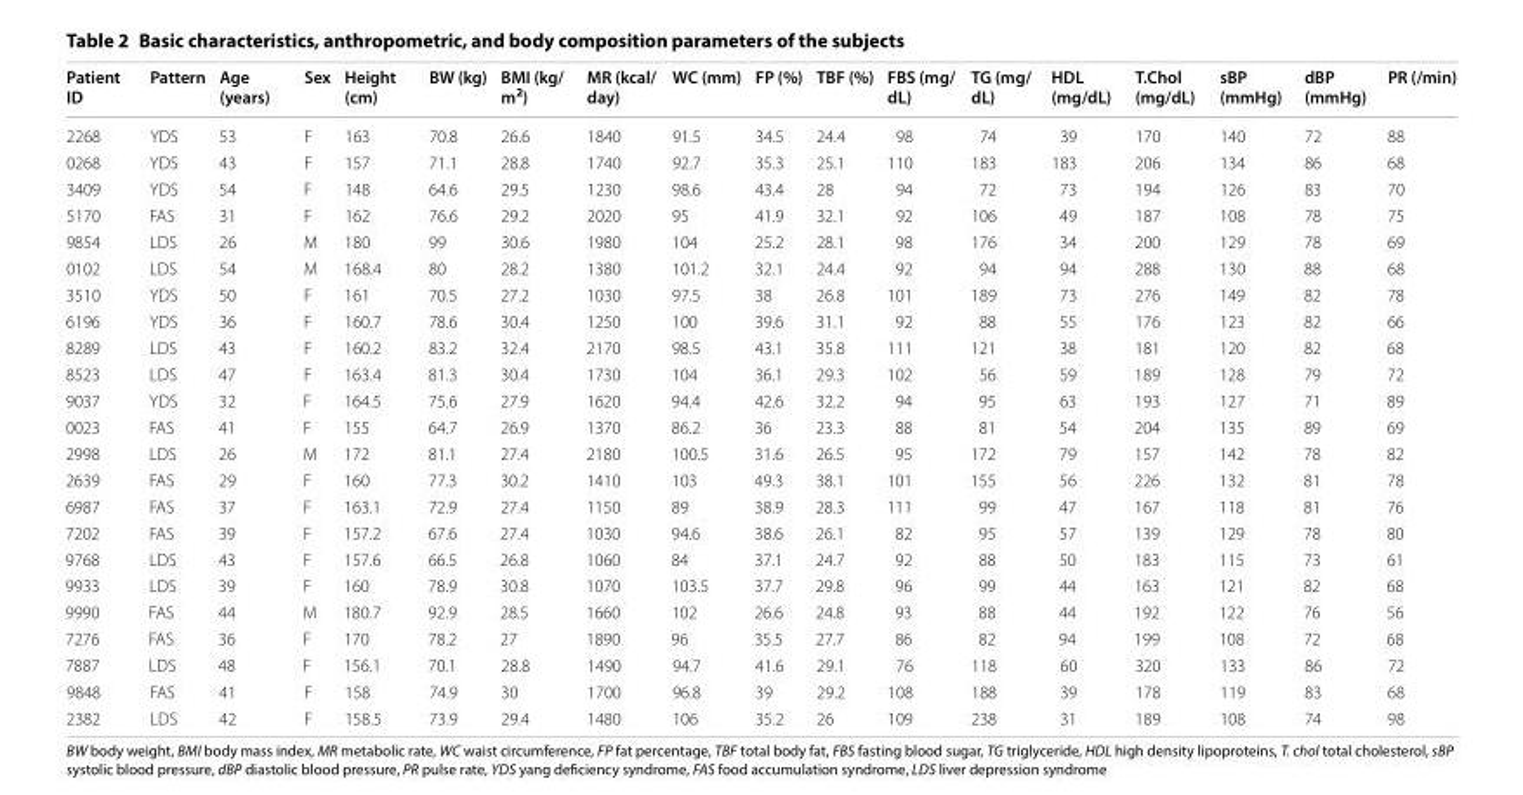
<table><thead><tr><td>Patient ID</td><td>Pattern</td><td>Age (years)</td><td>Sex</td><td>Height (cm)</td><td>BW (kg)</td><td>BMI (kg/ m<sup>2</sup>)</td><td>MR (kcal/ day)</td><td>WC (mm)</td><td>FP (%)</td><td>TBF (%)</td><td>FBS (mg/ dL)</td><td>TG (mg/ dL)</td><td>HDL (mg/dL)</td><td>T.Chol (mg/dL)</td><td>sBP (mmHg)</td><td>dBP (mmHg)</td><td>PR (/min)</td></tr></thead><tbody><tr><td>2268</td><td>YDS</td><td>53</td><td>F</td><td>163</td><td>70.8</td><td>26.6</td><td>1840</td><td>91.5</td><td>34.5</td><td>24.4</td><td>98</td><td>74</td><td>39</td><td>170</td><td>140</td><td>72</td><td>88</td></tr><tr><td>0268</td><td>YDS</td><td>43</td><td>F</td><td>157</td><td>71.1</td><td>28.8</td><td>1740</td><td>92.7</td><td>35.3</td><td>25.1</td><td>110</td><td>183</td><td>183</td><td>206</td><td>134</td><td>86</td><td>68</td></tr><tr><td>3409</td><td>YDS</td><td>54</td><td>F</td><td>148</td><td>64.6</td><td>29.5</td><td>1230</td><td>98.6</td><td>43.4</td><td>28</td><td>94</td><td>72</td><td>73</td><td>194</td><td>126</td><td>83</td><td>70</td></tr><tr><td>5170</td><td>FAS</td><td>31</td><td>F</td><td>162</td><td>76.6</td><td>29.2</td><td>2020</td><td>95</td><td>41.9</td><td>32.1</td><td>92</td><td>106</td><td>49</td><td>187</td><td>108</td><td>78</td><td>75</td></tr><tr><td>9854</td><td>LDS</td><td>26</td><td>M</td><td>180</td><td>99</td><td>30.6</td><td>1980</td><td>104</td><td>25.2</td><td>28.1</td><td>98</td><td>176</td><td>34</td><td>200</td><td>129</td><td>78</td><td>69</td></tr><tr><td>0102</td><td>LDS</td><td>54</td><td>M</td><td>168.4</td><td>80</td><td>28.2</td><td>1380</td><td>101.2</td><td>32.1</td><td>24.4</td><td>92</td><td>94</td><td>94</td><td>288</td><td>130</td><td>88</td><td>68</td></tr><tr><td>3510</td><td>YDS</td><td>50</td><td>F</td><td>161</td><td>70.5</td><td>27.2</td><td>1030</td><td>97.5</td><td>38</td><td>26.8</td><td>101</td><td>189</td><td>73</td><td>276</td><td>149</td><td>82</td><td>78</td></tr><tr><td>6196</td><td>YDS</td><td>36</td><td>F</td><td>160.7</td><td>78.6</td><td>30.4</td><td>1250</td><td>100</td><td>39.6</td><td>31.1</td><td>92</td><td>88</td><td>55</td><td>176</td><td>123</td><td>82</td><td>66</td></tr><tr><td>8289</td><td>LDS</td><td>43</td><td>F</td><td>160.2</td><td>83.2</td><td>32.4</td><td>2170</td><td>98.5</td><td>43.1</td><td>35.8</td><td>111</td><td>121</td><td>38</td><td>181</td><td>120</td><td>82</td><td>68</td></tr><tr><td>8523</td><td>LDS</td><td>47</td><td>F</td><td>163.4</td><td>81.3</td><td>30.4</td><td>1730</td><td>104</td><td>36.1</td><td>29.3</td><td>102</td><td>56</td><td>59</td><td>189</td><td>128</td><td>79</td><td>72</td></tr><tr><td>9037</td><td>YDS</td><td>32</td><td>F</td><td>164.5</td><td>75.6</td><td>27.9</td><td>1620</td><td>94.4</td><td>42.6</td><td>32.2</td><td>94</td><td>95</td><td>63</td><td>193</td><td>127</td><td>71</td><td>89</td></tr><tr><td>0023</td><td>FAS</td><td>41</td><td>F</td><td>155</td><td>64.7</td><td>26.9</td><td>1370</td><td>86.2</td><td>36</td><td>23.3</td><td>88</td><td>81</td><td>54</td><td>204</td><td>135</td><td>89</td><td>69</td></tr><tr><td>2998</td><td>LDS</td><td>26</td><td>M</td><td>172</td><td>81.1</td><td>27.4</td><td>2180</td><td>100.5</td><td>31.6</td><td>26.5</td><td>95</td><td>172</td><td>79</td><td>157</td><td>142</td><td>78</td><td>82</td></tr><tr><td>2639</td><td>FAS</td><td>29</td><td>F</td><td>160</td><td>77.3</td><td>30.2</td><td>1410</td><td>103</td><td>49.3</td><td>38.1</td><td>101</td><td>155</td><td>56</td><td>226</td><td>132</td><td>81</td><td>78</td></tr><tr><td>6987</td><td>FAS</td><td>37</td><td>F</td><td>163.1</td><td>72.9</td><td>27.4</td><td>1150</td><td>89</td><td>38.9</td><td>28.3</td><td>111</td><td>99</td><td>47</td><td>167</td><td>118</td><td>81</td><td>76</td></tr><tr><td>7202</td><td>FAS</td><td>39</td><td>F</td><td>157.2</td><td>67.6</td><td>27.4</td><td>1030</td><td>94.6</td><td>38.6</td><td>26.1</td><td>82</td><td>95</td><td>57</td><td>139</td><td>129</td><td>78</td><td>80</td></tr><tr><td>9768</td><td>LDS</td><td>43</td><td>F</td><td>157.6</td><td>66.5</td><td>26.8</td><td>1060</td><td>84</td><td>37.1</td><td>24.7</td><td>92</td><td>88</td><td>50</td><td>183</td><td>115</td><td>73</td><td>61</td></tr><tr><td>9933</td><td>LDS</td><td>39</td><td>F</td><td>160</td><td>78.9</td><td>30.8</td><td>1070</td><td>103.5</td><td>37.7</td><td>29.8</td><td>96</td><td>99</td><td>44</td><td>163</td><td>121</td><td>82</td><td>68</td></tr><tr><td>9990</td><td>FAS</td><td>44</td><td>M</td><td>180.7</td><td>92.9</td><td>28.5</td><td>1660</td><td>102</td><td>26.6</td><td>24.8</td><td>93</td><td>88</td><td>44</td><td>192</td><td>122</td><td>76</td><td>56</td></tr><tr><td>7276</td><td>FAS</td><td>36</td><td>F</td><td>170</td><td>78.2</td><td>27</td><td>1890</td><td>96</td><td>35.5</td><td>27.7</td><td>86</td><td>82</td><td>94</td><td>199</td><td>108</td><td>72</td><td>68</td></tr><tr><td>7887</td><td>LDS</td><td>48</td><td>F</td><td>156.1</td><td>70.1</td><td>28.8</td><td>1490</td><td>94.7</td><td>41.6</td><td>29.1</td><td>76</td><td>118</td><td>60</td><td>320</td><td>133</td><td>86</td><td>72</td></tr><tr><td>9848</td><td>FAS</td><td>41</td><td>F</td><td>158</td><td>74.9</td><td>30</td><td>1700</td><td>96.8</td><td>39</td><td>29.2</td><td>108</td><td>188</td><td>39</td><td>178</td><td>119</td><td>83</td><td>68</td></tr><tr><td>2382</td><td>LDS</td><td>42</td><td>F</td><td>158.5</td><td>73.9</td><td>29.4</td><td>1480</td><td>106</td><td>35.2</td><td>26</td><td>109</td><td>238</td><td>31</td><td>189</td><td>108</td><td>74</td><td>98</td></tr></tbody></table>